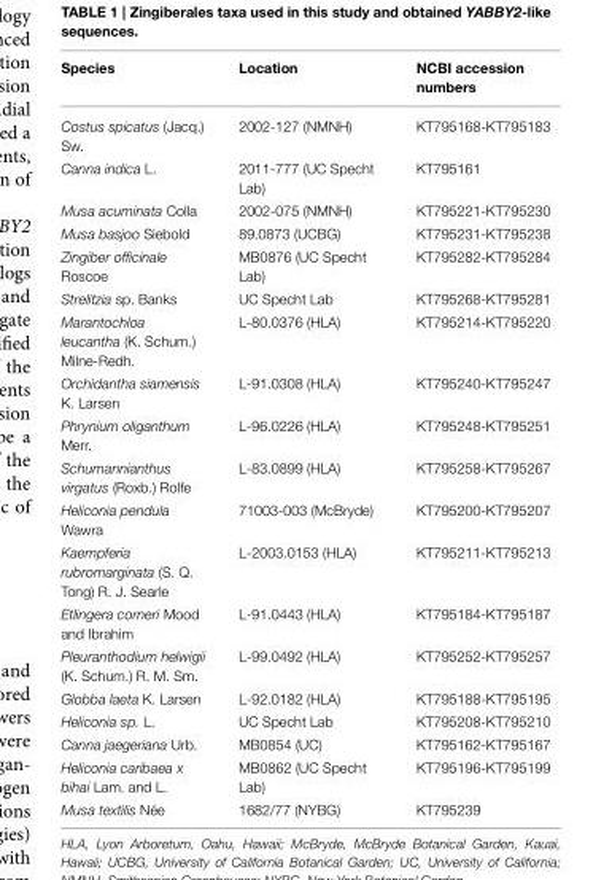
<table><thead><tr><td>Species</td><td>Location</td><td>NCBI accession numbers</td></tr></thead><tbody><tr><td>Costus spicatus (Jacq.) Sw.</td><td>2002-127 (NMNH)</td><td>KT795168-KT795183</td></tr><tr><td>Canna indica L.</td><td>2011-777 (UC Specht Lab)</td><td>KT795161</td></tr><tr><td>Musa acuminata Colla</td><td>2002-075 (NMNH)</td><td>KT795221-KT795230</td></tr><tr><td>Musa basjoo Siebold</td><td>89.0873 (UCBG)</td><td>KT795231-KT795238</td></tr><tr><td>Zingiber officinale Roscoe</td><td>MB0876 (UC Specht Lab)</td><td>KT795282-KT795284</td></tr><tr><td>Strelitzia sp. Banks</td><td>UC Specht Lab</td><td>KT795268-KT795281</td></tr><tr><td>Marantochloa leucantha (K. Schum.) Milne-Redh.</td><td>L-80.0376 (HLA)</td><td>KT795214-KT795220</td></tr><tr><td>Orchidantha siamensis K. Larsen</td><td>L-91.0308 (HLA)</td><td>KT795240-KT795247</td></tr><tr><td>Phrynium oliganthum Merr.</td><td>L-96.0226 (HLA)</td><td>KT795248-KT795251</td></tr><tr><td>Schumannianthus virgatus (Roxb.) Rolfe</td><td>L-83.0899 (HLA)</td><td>KT795258-KT795267</td></tr><tr><td>Heliconia pendula Wawra</td><td>71003-003 (McBryde)</td><td>KT795200-KT795207</td></tr><tr><td>Kaempferia rubromarginata (S. Q. Tong) R. J. Searle</td><td>L-2003.0153 (HLA)</td><td>KT795211-KT795213</td></tr><tr><td>Etlingera corneri Mood and Ibrahim</td><td>L-91.0443 (HLA)</td><td>KT795184-KT795187</td></tr><tr><td>Pleuranthodium helwigii (K. Schum.) R. M. Sm.</td><td>L-99.0492 (HLA)</td><td>KT795252-KT795257</td></tr><tr><td>Globba laeta K. Larsen</td><td>L-92.0182 (HLA)</td><td>KT795188-KT795195</td></tr><tr><td>Heliconia sp. L.</td><td>UC Specht Lab</td><td>KT795208-KT795210</td></tr><tr><td>Canna jaegeriana Urb.</td><td>MB0854 (UC)</td><td>KT795162-KT795167</td></tr><tr><td>Heliconia caribaea x bihai Lam. and L.</td><td>MB0862 (UC Specht Lab)</td><td>KT795196-KT795199</td></tr><tr><td>Musa textilis Née</td><td>1682/77 (NYBG)</td><td>KT795239</td></tr></tbody></table>